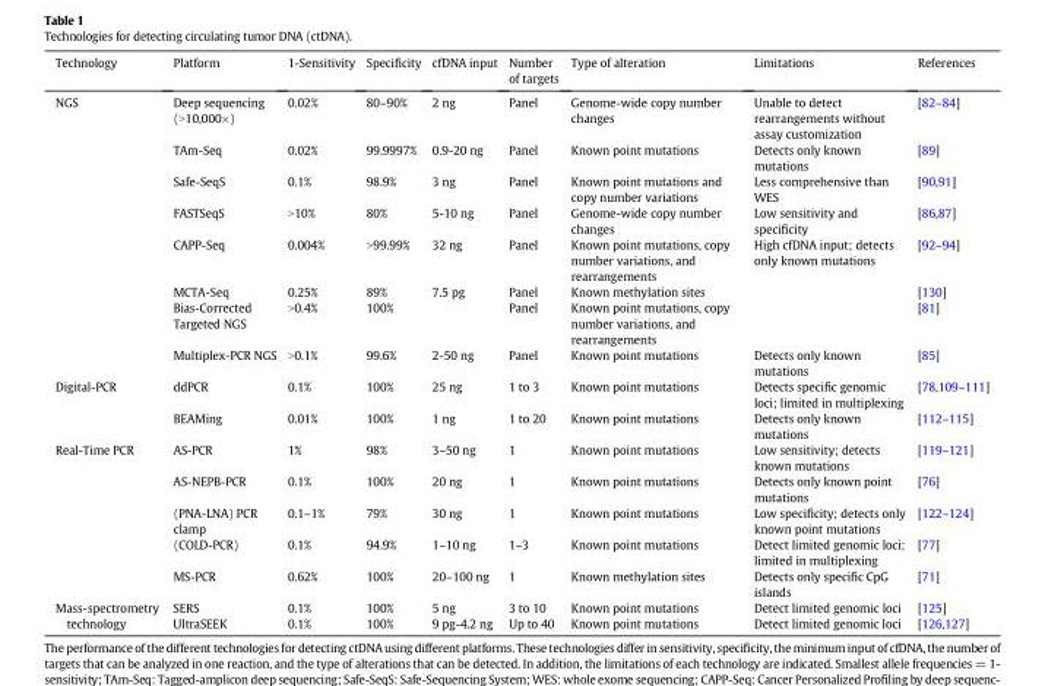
<table><thead><tr><td>Technology</td><td>Platform</td><td>1-Sensitivity</td><td>Specificity</td><td>cfDNA input</td><td>Number of targets</td><td>Type of alteration</td><td>Limitations</td><td>References</td></tr></thead><tbody><tr><td rowspan="8">NGS</td><td>Deep sequencing (&gt;10,000×)</td><td>0.02%</td><td>80–90%</td><td>2 ng</td><td>Panel</td><td>Genome-wide copy number changes</td><td>Unable to detect rearrangements without assay customization</td><td>[82–84]</td></tr><tr><td>TAm-Seq</td><td>0.02%</td><td>99.9997%</td><td>0.9-20 ng</td><td>Panel</td><td>Known point mutations</td><td>Detects only known mutations</td><td>[89]</td></tr><tr><td>Safe-SeqS</td><td>0.1%</td><td>98.9%</td><td>3 ng</td><td>Panel</td><td>Known point mutations and copy number variations</td><td>Less comprehensive than WES</td><td>[90,91]</td></tr><tr><td>FASTSeqS</td><td>&gt;10%</td><td>80%</td><td>5-10 ng</td><td>Panel</td><td>Genome-wide copy number changes</td><td>Low sensitivity and specificity</td><td>[86,87]</td></tr><tr><td>CAPP-Seq</td><td>0.004%</td><td>&gt;99.99%</td><td>32 ng</td><td>Panel</td><td>Known point mutations, copy number variations, and rearrangements</td><td>High cfDNA input; detects only known mutations</td><td>[92–94]</td></tr><tr><td>MCTA-Seq</td><td>0.25%</td><td>89%</td><td>7.5 pg</td><td>Panel</td><td>Known methylation sites</td><td></td><td>[130]</td></tr><tr><td>Bias-Corrected Targeted NGS</td><td>&gt;0.4%</td><td>100%</td><td></td><td>Panel</td><td>Known point mutations, copy number variations, and rearrangements</td><td></td><td>[81]</td></tr><tr><td>Multiplex-PCR NGS</td><td>&gt;0.1%</td><td>99.6%</td><td>2-50 ng</td><td>Panel</td><td>Known point mutations</td><td>Detects only known mutations</td><td>[85]</td></tr><tr><td rowspan="2">Digital-PCR</td><td>ddPCR</td><td>0.1%</td><td>100%</td><td>25 ng</td><td>1 to 3</td><td>Known point mutations</td><td>Detects specific genomic loci; limited in multiplexing</td><td>[78,109–111]</td></tr><tr><td>BEAMing</td><td>0.01%</td><td>100%</td><td>1 ng</td><td>1 to 20</td><td>Known point mutations</td><td>Detects only known mutations</td><td>[112–115]</td></tr><tr><td rowspan="5">Real-Time PCR</td><td>AS-PCR</td><td>1%</td><td>98%</td><td>3–50 ng</td><td>1</td><td>Known point mutations</td><td>Low sensitivity; detects known mutations</td><td>[119–121]</td></tr><tr><td>AS-NEPB-PCR</td><td>0.1%</td><td>100%</td><td>20 ng</td><td>1</td><td>Known point mutations</td><td>Detects only known point mutations</td><td>[76]</td></tr><tr><td>(PNA-LNA) PCR clamp</td><td>0.1–1%</td><td>79%</td><td>30 ng</td><td>1</td><td>Known point mutations</td><td>Low specificity; detects only known point mutations</td><td>[122–124]</td></tr><tr><td>(COLD-PCR)</td><td>0.1%</td><td>94.9%</td><td>1–10 ng</td><td>1–3</td><td>Known point mutations</td><td>Detect limited genomic loci; limited in multiplexing</td><td>[77]</td></tr><tr><td>MS-PCR</td><td>0.62%</td><td>100%</td><td>20–100 ng</td><td>1</td><td>Known methylation sites</td><td>Detects only specific CpG islands</td><td>[71]</td></tr><tr><td rowspan="2">Mass-spectrometry technology</td><td>SERS</td><td>0.1%</td><td>100%</td><td>5 ng</td><td>3 to 10</td><td>Known point mutations</td><td>Detect limited genomic loci</td><td>[125]</td></tr><tr><td>UltraSEEK</td><td>0.1%</td><td>100%</td><td>9 pg-4.2 ng</td><td>Up to 40</td><td>Known point mutations</td><td>Detect limited genomic loci</td><td>[126,127]</td></tr></tbody></table>